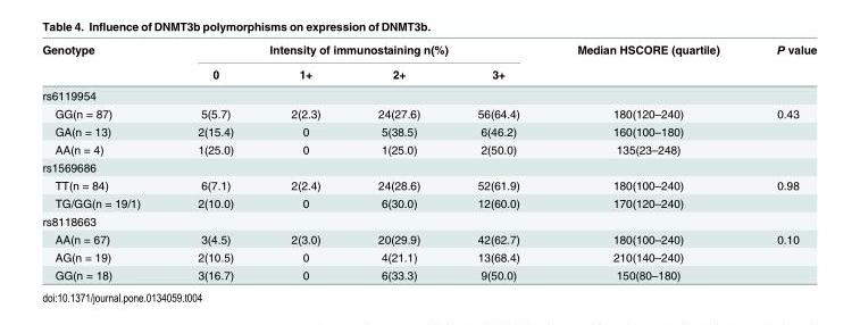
<table><thead><tr><td rowspan="2">Genotype</td><td colspan="4">Intensity of immunostaining n(%)</td><td rowspan="2">Median HSCORE (quartile)</td><td rowspan="2">P value</td></tr><tr><td>0</td><td>1+</td><td>2+</td><td>3+</td></tr></thead><tbody><tr><td colspan="7">rs6119954</td></tr><tr><td>GG(n = 87)</td><td>5(5.7)</td><td>2(2.3)</td><td>24(27.6)</td><td>56(64.4)</td><td>180(120–240)</td><td>0.43</td></tr><tr><td>GA(n = 13)</td><td>2(15.4)</td><td>0</td><td>5(38.5)</td><td>6(46.2)</td><td>160(100–180)</td><td></td></tr><tr><td>AA(n = 4)</td><td>1(25.0)</td><td>0</td><td>1(25.0)</td><td>2(50.0)</td><td>135(23–248)</td><td></td></tr><tr><td colspan="7">rs1569686</td></tr><tr><td>TT(n = 84)</td><td>6(7.1)</td><td>2(2.4)</td><td>24(28.6)</td><td>52(61.9)</td><td>180(100–240)</td><td>0.98</td></tr><tr><td>TG/GG(n = 19/1)</td><td>2(10.0)</td><td>0</td><td>6(30.0)</td><td>12(60.0)</td><td>170(120–240)</td><td></td></tr><tr><td colspan="7">rs8118663</td></tr><tr><td>AA(n = 67)</td><td>3(4.5)</td><td>2(3.0)</td><td>20(29.9)</td><td>42(62.7)</td><td>180(100–240)</td><td>0.10</td></tr><tr><td>AG(n = 19)</td><td>2(10.5)</td><td>0</td><td>4(21.1)</td><td>13(68.4)</td><td>210(140–240)</td><td></td></tr><tr><td>GG(n = 18)</td><td>3(16.7)</td><td>0</td><td>6(33.3)</td><td>9(50.0)</td><td>150(80–180)</td><td></td></tr></tbody></table>